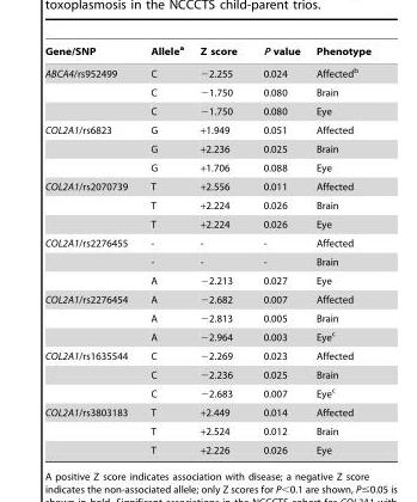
<table><thead><tr><td>Gene/SNP</td><td>Allele<sup>a</sup></td><td>Z score</td><td>P value</td><td>Phenotype</td></tr></thead><tbody><tr><td rowspan="3">ABCA4/rs952499</td><td>C</td><td>−2.255</td><td>0.024</td><td>Affected<sup>b</sup></td></tr><tr><td>C</td><td>−1.750</td><td>0.080</td><td>Brain</td></tr><tr><td>C</td><td>−1.750</td><td>0.080</td><td>Eye</td></tr><tr><td rowspan="3">COL2A1/rs6823</td><td>G</td><td>+1.949</td><td>0.051</td><td>Affected</td></tr><tr><td>G</td><td>+2.236</td><td>0.025</td><td>Brain</td></tr><tr><td>G</td><td>+1.706</td><td>0.088</td><td>Eye</td></tr><tr><td rowspan="3">COL2A1/rs2070739</td><td>T</td><td>+2.556</td><td>0.011</td><td>Affected</td></tr><tr><td>T</td><td>+2.224</td><td>0.026</td><td>Brain</td></tr><tr><td>T</td><td>+2.224</td><td>0.026</td><td>Eye</td></tr><tr><td rowspan="3">COL2A1/rs2276455</td><td>-</td><td>-</td><td>-</td><td>Affected</td></tr><tr><td>-</td><td>-</td><td>-</td><td>Brain</td></tr><tr><td>A</td><td>−2.213</td><td>0.027</td><td>Eye</td></tr><tr><td rowspan="3">COL2A1/rs2276454</td><td>A</td><td>−2.682</td><td>0.007</td><td>Affected</td></tr><tr><td>A</td><td>−2.813</td><td>0.005</td><td>Brain</td></tr><tr><td>A</td><td>−2.964</td><td>0.003</td><td>Eye<sup>c</sup></td></tr><tr><td rowspan="3">COL2A1/rs1635544</td><td>C</td><td>−2.269</td><td>0.023</td><td>Affected</td></tr><tr><td>C</td><td>−2.236</td><td>0.025</td><td>Brain</td></tr><tr><td>C</td><td>−2.683</td><td>0.007</td><td>Eye<sup>c</sup></td></tr><tr><td rowspan="3">COL2A1/rs3803183</td><td>T</td><td>+2.449</td><td>0.014</td><td>Affected</td></tr><tr><td>T</td><td>+2.524</td><td>0.012</td><td>Brain</td></tr><tr><td>T</td><td>+2.226</td><td>0.026</td><td>Eye</td></tr></tbody></table>